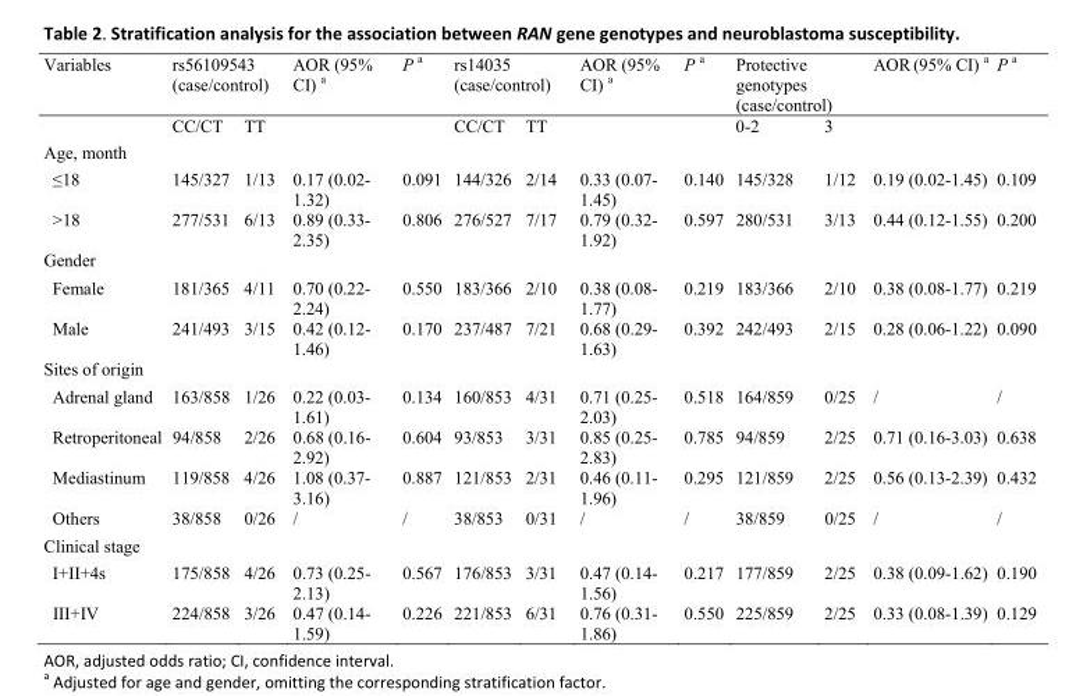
<table><tbody><tr><td rowspan="2">Variables</td><td colspan="2">rs56109543 (case/control)</td><td>AOR (95% CI) <sup>a</sup></td><td>P <sup>a</sup></td><td colspan="2">rs14035 (case/control)</td><td>AOR (95% CI) <sup>a</sup></td><td>P <sup>a</sup></td><td colspan="2">Protective genotypes (case/control)</td><td>AOR (95% CI) <sup>a</sup></td><td>P <sup>a</sup></td></tr><tr><td>CC/CT</td><td>TT</td><td></td><td></td><td>CC/CT</td><td>TT</td><td></td><td></td><td>0-2</td><td>3</td><td></td><td></td></tr><tr><td colspan="13">Age, month</td></tr><tr><td>≤18</td><td>145/327</td><td>1/13</td><td>0.17 (0.02- 1.32)</td><td>0.091</td><td>144/326</td><td>2/14</td><td>0.33 (0.07- 1.45)</td><td>0.140</td><td>145/328</td><td>1/12</td><td>0.19 (0.02-1.45)</td><td>0.109</td></tr><tr><td>&gt;18</td><td>277/531</td><td>6/13</td><td>0.89 (0.33- 2.35)</td><td>0.806</td><td>276/527</td><td>7/17</td><td>0.79 (0.32- 1.92)</td><td>0.597</td><td>280/531</td><td>3/13</td><td>0.44 (0.12-1.55)</td><td>0.200</td></tr><tr><td colspan="13">Gender</td></tr><tr><td>Female</td><td>181/365</td><td>4/11</td><td>0.70 (0.22- 2.24)</td><td>0.550</td><td>183/366</td><td>2/10</td><td>0.38 (0.08- 1.77)</td><td>0.219</td><td>183/366</td><td>2/10</td><td>0.38 (0.08-1.77)</td><td>0.219</td></tr><tr><td>Male</td><td>241/493</td><td>3/15</td><td>0.42 (0.12- 1.46)</td><td>0.170</td><td>237/487</td><td>7/21</td><td>0.68 (0.29- 1.63)</td><td>0.392</td><td>242/493</td><td>2/15</td><td>0.28 (0.06-1.22)</td><td>0.090</td></tr><tr><td colspan="13">Sites of origin</td></tr><tr><td>Adrenal gland</td><td>163/858</td><td>1/26</td><td>0.22 (0.03- 1.61)</td><td>0.134</td><td>160/853</td><td>4/31</td><td>0.71 (0.25- 2.03)</td><td>0.518</td><td>164/859</td><td>0/25</td><td>/</td><td>/</td></tr><tr><td>Retroperitoneal</td><td>94/858</td><td>2/26</td><td>0.68 (0.16- 2.92)</td><td>0.604</td><td>93/853</td><td>3/31</td><td>0.85 (0.25- 2.83)</td><td>0.785</td><td>94/859</td><td>2/25</td><td>0.71 (0.16-3.03)</td><td>0.638</td></tr><tr><td>Mediastinum</td><td>119/858</td><td>4/26</td><td>1.08 (0.37- 3.16)</td><td>0.887</td><td>121/853</td><td>2/31</td><td>0.46 (0.11- 1.96)</td><td>0.295</td><td>121/859</td><td>2/25</td><td>0.56 (0.13-2.39)</td><td>0.432</td></tr><tr><td>Others</td><td>38/858</td><td>0/26</td><td>/</td><td>/</td><td>38/853</td><td>0/31</td><td>/</td><td>/</td><td>38/859</td><td>0/25</td><td>/</td><td>/</td></tr><tr><td colspan="13">Clinical stage</td></tr><tr><td>I+II+4s</td><td>175/858</td><td>4/26</td><td>0.73 (0.25- 2.13)</td><td>0.567</td><td>176/853</td><td>3/31</td><td>0.47 (0.14- 1.56)</td><td>0.217</td><td>177/859</td><td>2/25</td><td>0.38 (0.09-1.62)</td><td>0.190</td></tr><tr><td>III+IV</td><td>224/858</td><td>3/26</td><td>0.47 (0.14- 1.59)</td><td>0.226</td><td>221/853</td><td>6/31</td><td>0.76 (0.31- 1.86)</td><td>0.550</td><td>225/859</td><td>2/25</td><td>0.33 (0.08-1.39)</td><td>0.129</td></tr></tbody></table>